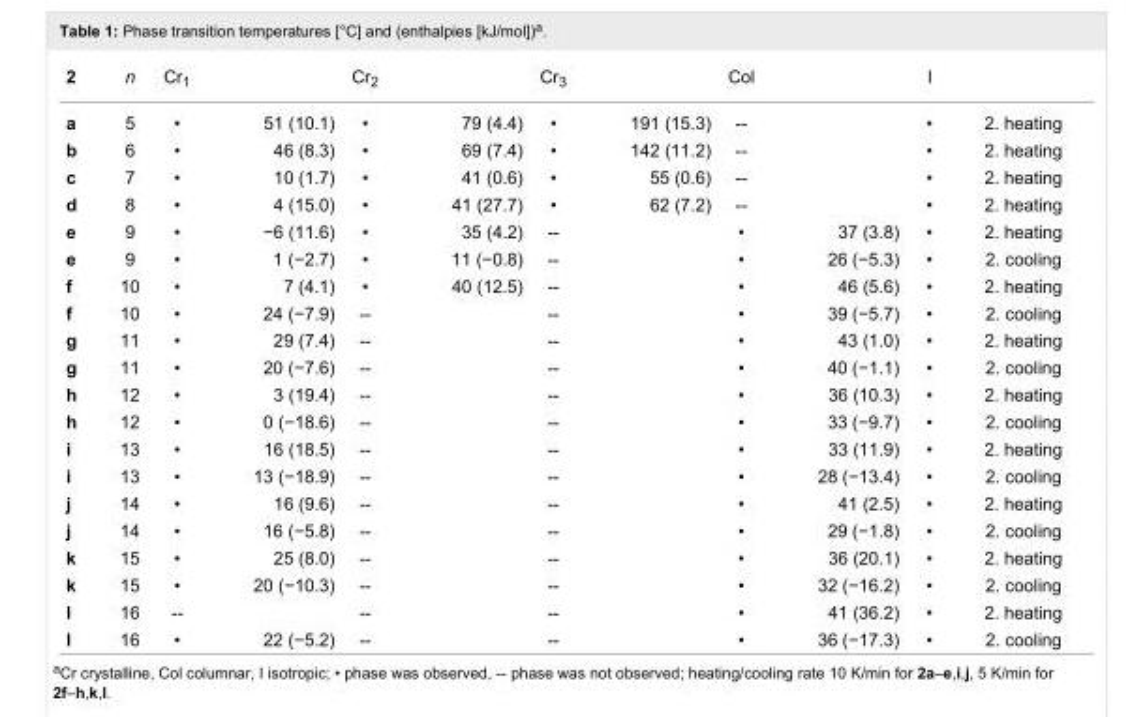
<table><tbody><tr><td>2</td><td>n</td><td>Cr<sub>1</sub></td><td></td><td>Cr<sub>2</sub></td><td></td><td>Cr<sub>3</sub></td><td></td><td>Col</td><td></td><td>I</td><td></td></tr><tr><td>a</td><td>5</td><td>•</td><td>51 (10.1)</td><td>•</td><td>79 (4.4)</td><td>•</td><td>191 (15.3)</td><td>--</td><td></td><td>•</td><td>2. heating</td></tr><tr><td>b</td><td>6</td><td>•</td><td>46 (8.3)</td><td>•</td><td>69 (7.4)</td><td>•</td><td>142 (11.2)</td><td>--</td><td></td><td>•</td><td>2. heating</td></tr><tr><td>c</td><td>7</td><td>•</td><td>10 (1.7)</td><td>•</td><td>41 (0.6)</td><td>•</td><td>55 (0.6)</td><td>--</td><td></td><td>•</td><td>2. heating</td></tr><tr><td>d</td><td>8</td><td>•</td><td>4 (15.0)</td><td>•</td><td>41 (27.7)</td><td>•</td><td>62 (7.2)</td><td>--</td><td></td><td>•</td><td>2. heating</td></tr><tr><td>e</td><td>9</td><td>•</td><td>−6 (11.6)</td><td>•</td><td>35 (4.2)</td><td>--</td><td></td><td>•</td><td>37 (3.8)</td><td>•</td><td>2. heating</td></tr><tr><td>e</td><td>9</td><td>•</td><td>1 (−2.7)</td><td>•</td><td>11 (−0.8)</td><td>--</td><td></td><td>•</td><td>26 (−5.3)</td><td>•</td><td>2. cooling</td></tr><tr><td>f</td><td>10</td><td>•</td><td>7 (4.1)</td><td>•</td><td>40 (12.5)</td><td>--</td><td></td><td>•</td><td>46 (5.6)</td><td>•</td><td>2. heating</td></tr><tr><td>f</td><td>10</td><td>•</td><td>24 (−7.9)</td><td>--</td><td></td><td>--</td><td></td><td>•</td><td>39 (−5.7)</td><td>•</td><td>2. cooling</td></tr><tr><td>g</td><td>11</td><td>•</td><td>29 (7.4)</td><td>--</td><td></td><td>--</td><td></td><td>•</td><td>43 (1.0)</td><td>•</td><td>2. heating</td></tr><tr><td>g</td><td>11</td><td>•</td><td>20 (−7.6)</td><td>--</td><td></td><td>--</td><td></td><td>•</td><td>40 (−1.1)</td><td>•</td><td>2. cooling</td></tr><tr><td>h</td><td>12</td><td>•</td><td>3 (19.4)</td><td>--</td><td></td><td>--</td><td></td><td>•</td><td>36 (10.3)</td><td>•</td><td>2. heating</td></tr><tr><td>h</td><td>12</td><td>•</td><td>0 (−18.6)</td><td>--</td><td></td><td>--</td><td></td><td>•</td><td>33 (−9.7)</td><td>•</td><td>2. cooling</td></tr><tr><td>i</td><td>13</td><td>•</td><td>16 (18.5)</td><td>--</td><td></td><td>--</td><td></td><td>•</td><td>33 (11.9)</td><td>•</td><td>2. heating</td></tr><tr><td>i</td><td>13</td><td>•</td><td>13 (−18.9)</td><td>--</td><td></td><td>--</td><td></td><td>•</td><td>28 (−13.4)</td><td>•</td><td>2. cooling</td></tr><tr><td>j</td><td>14</td><td>•</td><td>16 (9.6)</td><td>--</td><td></td><td>--</td><td></td><td>•</td><td>41 (2.5)</td><td>•</td><td>2. heating</td></tr><tr><td>j</td><td>14</td><td>•</td><td>16 (−5.8)</td><td>--</td><td></td><td>--</td><td></td><td>•</td><td>29 (−1.8)</td><td>•</td><td>2. cooling</td></tr><tr><td>k</td><td>15</td><td>•</td><td>25 (8.0)</td><td>--</td><td></td><td>--</td><td></td><td>•</td><td>36 (20.1)</td><td>•</td><td>2. heating</td></tr><tr><td>k</td><td>15</td><td>•</td><td>20 (−10.3)</td><td>--</td><td></td><td>--</td><td></td><td>•</td><td>32 (−16.2)</td><td>•</td><td>2. cooling</td></tr><tr><td>l</td><td>16</td><td>--</td><td></td><td>--</td><td></td><td>--</td><td></td><td>•</td><td>41 (36.2)</td><td>•</td><td>2. heating</td></tr><tr><td>l</td><td>16</td><td>•</td><td>22 (−5.2)</td><td>--</td><td></td><td>--</td><td></td><td>•</td><td>36 (−17.3)</td><td>•</td><td>2. cooling</td></tr></tbody></table>